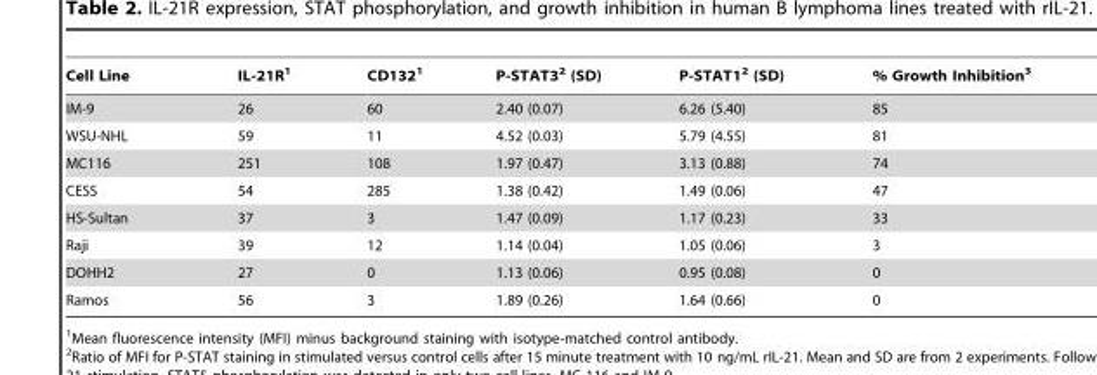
<table><thead><tr><td>Cell Line</td><td>IL-21R<sup>1</sup></td><td>CD132<sup>1</sup></td><td>P-STAT3<sup>2</sup> (SD)</td><td>P-STAT1<sup>2</sup> (SD)</td><td>% Growth Inhibition<sup>3</sup></td></tr></thead><tbody><tr><td>IM-9</td><td>26</td><td>60</td><td>2.40 (0.07)</td><td>6.26 (5.40)</td><td>85</td></tr><tr><td>WSU-NHL</td><td>59</td><td>11</td><td>4.52 (0.03)</td><td>5.79 (4.55)</td><td>81</td></tr><tr><td>MC116</td><td>251</td><td>108</td><td>1.97 (0.47)</td><td>3.13 (0.88)</td><td>74</td></tr><tr><td>CESS</td><td>54</td><td>285</td><td>1.38 (0.42)</td><td>1.49 (0.06)</td><td>47</td></tr><tr><td>HS-Sultan</td><td>37</td><td>3</td><td>1.47 (0.09)</td><td>1.17 (0.23)</td><td>33</td></tr><tr><td>Raji</td><td>39</td><td>12</td><td>1.14 (0.04)</td><td>1.05 (0.06)</td><td>3</td></tr><tr><td>DOHH2</td><td>27</td><td>0</td><td>1.13 (0.06)</td><td>0.95 (0.08)</td><td>0</td></tr><tr><td>Ramos</td><td>56</td><td>3</td><td>1.89 (0.26)</td><td>1.64 (0.66)</td><td>0</td></tr></tbody></table>